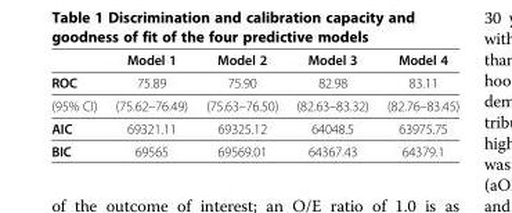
<table><thead><tr><td></td><td>Model 1</td><td>Model 2</td><td>Model 3</td><td>Model 4</td></tr></thead><tbody><tr><td>ROC</td><td>75.89</td><td>75.90</td><td>82.98</td><td>83.11</td></tr><tr><td>(95% CI)</td><td>(75.62–76.49)</td><td>(75.63–76.50)</td><td>(82.63–83.32)</td><td>(82.76–83.45)</td></tr><tr><td>AIC</td><td>69321.11</td><td>69325.12</td><td>64048.5</td><td>63975.75</td></tr><tr><td>BIC</td><td>69565</td><td>69569.01</td><td>64367.43</td><td>64379.1</td></tr></tbody></table>